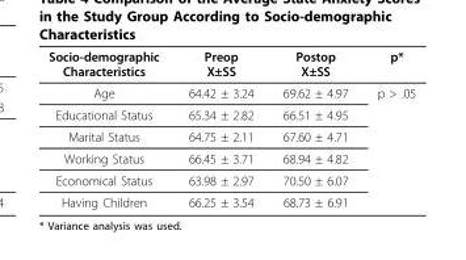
<table><thead><tr><td>Socio-demographic Characteristics</td><td>Preop X±SS</td><td>Postop X±SS</td><td>p*</td></tr></thead><tbody><tr><td>Age</td><td>64.42 ± 3.24</td><td>69.62 ± 4.97</td><td>p &gt; .05</td></tr><tr><td>Educational Status</td><td>65.34 ± 2.82</td><td>66.51 ± 4.95</td><td></td></tr><tr><td>Marital Status</td><td>64.75 ± 2.11</td><td>67.60 ± 4.71</td><td></td></tr><tr><td>Working Status</td><td>66.45 ± 3.71</td><td>68.94 ± 4.82</td><td></td></tr><tr><td>Economical Status</td><td>63.98 ± 2.97</td><td>70.50 ± 6.07</td><td></td></tr><tr><td>Having Children</td><td>66.25 ± 3.54</td><td>68.73 ± 6.91</td><td></td></tr></tbody></table>